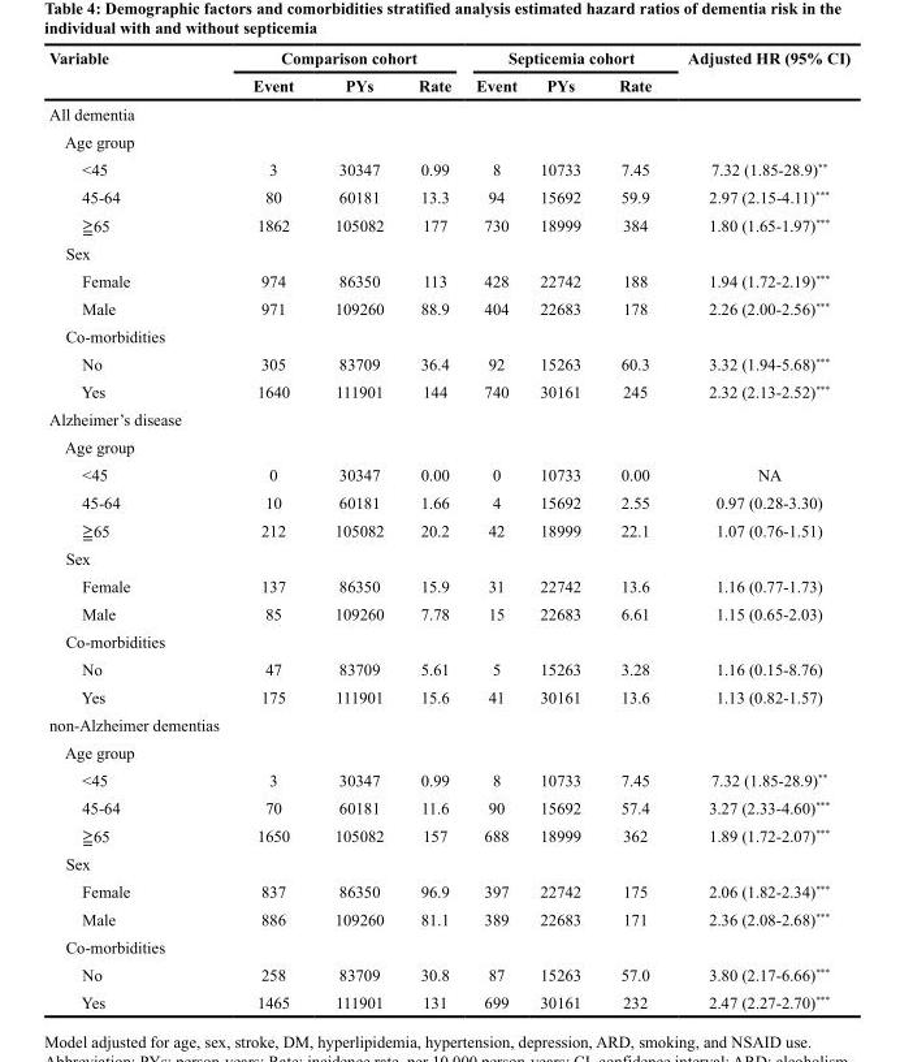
<table><thead><tr><td rowspan="2">Variable</td><td colspan="3">Comparison cohort</td><td colspan="3">Septicemia cohort</td><td rowspan="2">Adjusted HR (95% CI)</td></tr><tr><td>Event</td><td>PYs</td><td>Rate</td><td>Event</td><td>PYs</td><td>Rate</td></tr></thead><tbody><tr><td colspan="8">All dementia</td></tr><tr><td colspan="8">Age group</td></tr><tr><td>&lt;45</td><td>3</td><td>30347</td><td>0.99</td><td>8</td><td>10733</td><td>7.45</td><td>7.32 (1.85-28.9)**</td></tr><tr><td>45-64</td><td>80</td><td>60181</td><td>13.3</td><td>94</td><td>15692</td><td>59.9</td><td>2.97 (2.15-4.11)***</td></tr><tr><td>≧65</td><td>1862</td><td>105082</td><td>177</td><td>730</td><td>18999</td><td>384</td><td>1.80 (1.65-1.97)***</td></tr><tr><td colspan="8">Sex</td></tr><tr><td>Female</td><td>974</td><td>86350</td><td>113</td><td>428</td><td>22742</td><td>188</td><td>1.94 (1.72-2.19)***</td></tr><tr><td>Male</td><td>971</td><td>109260</td><td>88.9</td><td>404</td><td>22683</td><td>178</td><td>2.26 (2.00-2.56)***</td></tr><tr><td colspan="8">Co-morbidities</td></tr><tr><td>No</td><td>305</td><td>83709</td><td>36.4</td><td>92</td><td>15263</td><td>60.3</td><td>3.32 (1.94-5.68)***</td></tr><tr><td>Yes</td><td>1640</td><td>111901</td><td>144</td><td>740</td><td>30161</td><td>245</td><td>2.32 (2.13-2.52)***</td></tr><tr><td colspan="8">Alzheimer’s disease</td></tr><tr><td colspan="8">Age group</td></tr><tr><td>&lt;45</td><td>0</td><td>30347</td><td>0.00</td><td>0</td><td>10733</td><td>0.00</td><td>NA</td></tr><tr><td>45-64</td><td>10</td><td>60181</td><td>1.66</td><td>4</td><td>15692</td><td>2.55</td><td>0.97 (0.28-3.30)</td></tr><tr><td>≧65</td><td>212</td><td>105082</td><td>20.2</td><td>42</td><td>18999</td><td>22.1</td><td>1.07 (0.76-1.51)</td></tr><tr><td colspan="8">Sex</td></tr><tr><td>Female</td><td>137</td><td>86350</td><td>15.9</td><td>31</td><td>22742</td><td>13.6</td><td>1.16 (0.77-1.73)</td></tr><tr><td>Male</td><td>85</td><td>109260</td><td>7.78</td><td>15</td><td>22683</td><td>6.61</td><td>1.15 (0.65-2.03)</td></tr><tr><td colspan="8">Co-morbidities</td></tr><tr><td>No</td><td>47</td><td>83709</td><td>5.61</td><td>5</td><td>15263</td><td>3.28</td><td>1.16 (0.15-8.76)</td></tr><tr><td>Yes</td><td>175</td><td>111901</td><td>15.6</td><td>41</td><td>30161</td><td>13.6</td><td>1.13 (0.82-1.57)</td></tr><tr><td colspan="8">non-Alzheimer dementias</td></tr><tr><td colspan="8">Age group</td></tr><tr><td>&lt;45</td><td>3</td><td>30347</td><td>0.99</td><td>8</td><td>10733</td><td>7.45</td><td>7.32 (1.85-28.9)**</td></tr><tr><td>45-64</td><td>70</td><td>60181</td><td>11.6</td><td>90</td><td>15692</td><td>57.4</td><td>3.27 (2.33-4.60)***</td></tr><tr><td>≧65</td><td>1650</td><td>105082</td><td>157</td><td>688</td><td>18999</td><td>362</td><td>1.89 (1.72-2.07)***</td></tr><tr><td colspan="8">Sex</td></tr><tr><td>Female</td><td>837</td><td>86350</td><td>96.9</td><td>397</td><td>22742</td><td>175</td><td>2.06 (1.82-2.34)***</td></tr><tr><td>Male</td><td>886</td><td>109260</td><td>81.1</td><td>389</td><td>22683</td><td>171</td><td>2.36 (2.08-2.68)***</td></tr><tr><td colspan="8">Co-morbidities</td></tr><tr><td>No</td><td>258</td><td>83709</td><td>30.8</td><td>87</td><td>15263</td><td>57.0</td><td>3.80 (2.17-6.66)***</td></tr><tr><td>Yes</td><td>1465</td><td>111901</td><td>131</td><td>699</td><td>30161</td><td>232</td><td>2.47 (2.27-2.70)***</td></tr></tbody></table>